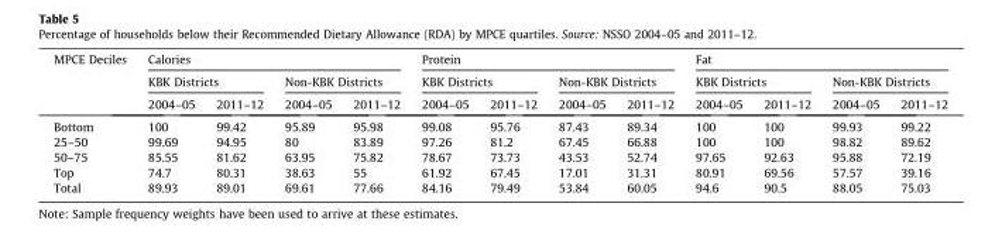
<table><thead><tr><td rowspan="3">MPCE Deciles</td><td colspan="4">Calories</td><td colspan="4">Protein</td><td colspan="4">Fat</td></tr><tr><td colspan="2">KBK Districts</td><td colspan="2">Non-KBK Districts</td><td colspan="2">KBK Districts</td><td colspan="2">Non-KBK Districts</td><td colspan="2">KBK Districts</td><td colspan="2">Non-KBK Districts</td></tr><tr><td>2004–05</td><td>2011–12</td><td>2004–05</td><td>2011–12</td><td>2004–05</td><td>2011–12</td><td>2004–05</td><td>2011–12</td><td>2004–05</td><td>2011–12</td><td>2004–05</td><td>2011–12</td></tr></thead><tbody><tr><td>Bottom</td><td>100</td><td>99.42</td><td>95.89</td><td>95.98</td><td>99.08</td><td>95.76</td><td>87.43</td><td>89.34</td><td>100</td><td>100</td><td>99.93</td><td>99.22</td></tr><tr><td>25–50</td><td>99.69</td><td>94.95</td><td>80</td><td>83.89</td><td>97.26</td><td>81.2</td><td>67.45</td><td>66.88</td><td>100</td><td>100</td><td>98.82</td><td>89.62</td></tr><tr><td>50–75</td><td>85.55</td><td>81.62</td><td>63.95</td><td>75.82</td><td>78.67</td><td>73.73</td><td>43.53</td><td>52.74</td><td>97.65</td><td>92.63</td><td>95.88</td><td>72.19</td></tr><tr><td>Top</td><td>74.7</td><td>80.31</td><td>38.63</td><td>55</td><td>61.92</td><td>67.45</td><td>17.01</td><td>31.31</td><td>80.91</td><td>69.56</td><td>57.57</td><td>39.16</td></tr><tr><td>Total</td><td>89.93</td><td>89.01</td><td>69.61</td><td>77.66</td><td>84.16</td><td>79.49</td><td>53.84</td><td>60.05</td><td>94.6</td><td>90.5</td><td>88.05</td><td>75.03</td></tr></tbody></table>